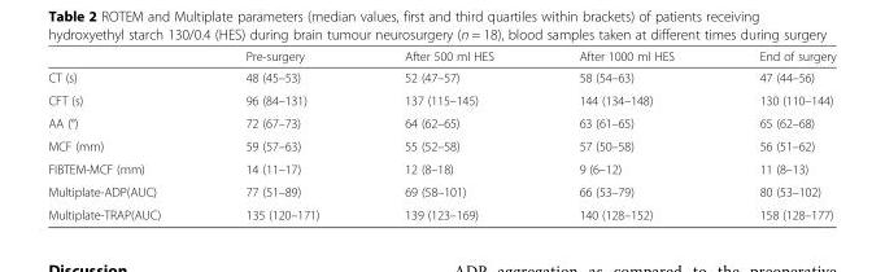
<table><thead><tr><td></td><td>Pre-surgery</td><td>After 500 ml HES</td><td>After 1000 ml HES</td><td>End of surgery</td></tr></thead><tbody><tr><td>CT (s)</td><td>48 (45–53)</td><td>52 (47–57)</td><td>58 (54–63)</td><td>47 (44–56)</td></tr><tr><td>CFT (s)</td><td>96 (84–131)</td><td>137 (115–145)</td><td>144 (134–148)</td><td>130 (110–144)</td></tr><tr><td>AA (°)</td><td>72 (67–73)</td><td>64 (62–65)</td><td>63 (61–65)</td><td>65 (62–68)</td></tr><tr><td>MCF (mm)</td><td>59 (57–63)</td><td>55 (52–58)</td><td>57 (50–58)</td><td>56 (51–62)</td></tr><tr><td>FIBTEM-MCF (mm)</td><td>14 (11–17)</td><td>12 (8–18)</td><td>9 (6–12)</td><td>11 (8–13)</td></tr><tr><td>Multiplate-ADP(AUC)</td><td>77 (51–89)</td><td>69 (58–101)</td><td>66 (53–79)</td><td>80 (53–102)</td></tr><tr><td>Multiplate-TRAP(AUC)</td><td>135 (120–171)</td><td>139 (123–169)</td><td>140 (128–152)</td><td>158 (128–177)</td></tr></tbody></table>